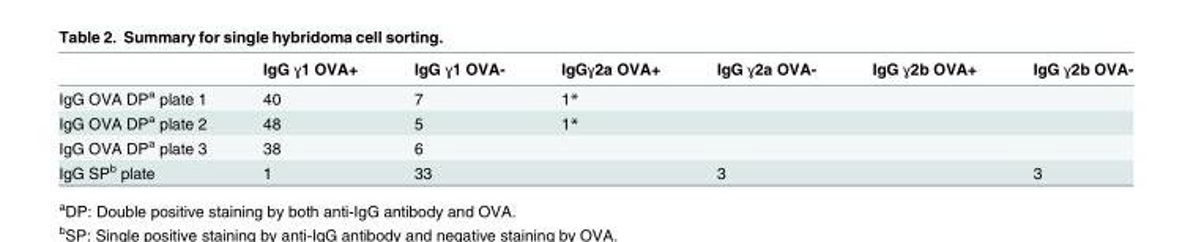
<table><thead><tr><td></td><td>IgG ɣ1 OVA+</td><td>IgG ɣ1 OVA-</td><td>IgGɣ2a OVA+</td><td>IgG ɣ2a OVA-</td><td>IgG ɣ2b OVA+</td><td>IgG ɣ2b OVA-</td></tr></thead><tbody><tr><td>IgG OVA DP<sup>a</sup> plate 1</td><td>40</td><td>7</td><td>1*</td><td></td><td></td><td></td></tr><tr><td>IgG OVA DP<sup>a</sup> plate 2</td><td>48</td><td>5</td><td>1*</td><td></td><td></td><td></td></tr><tr><td>IgG OVA DP<sup>a</sup> plate 3</td><td>38</td><td>6</td><td></td><td></td><td></td><td></td></tr><tr><td>IgG SP<sup>b</sup> plate</td><td>1</td><td>33</td><td></td><td>3</td><td></td><td>3</td></tr></tbody></table>